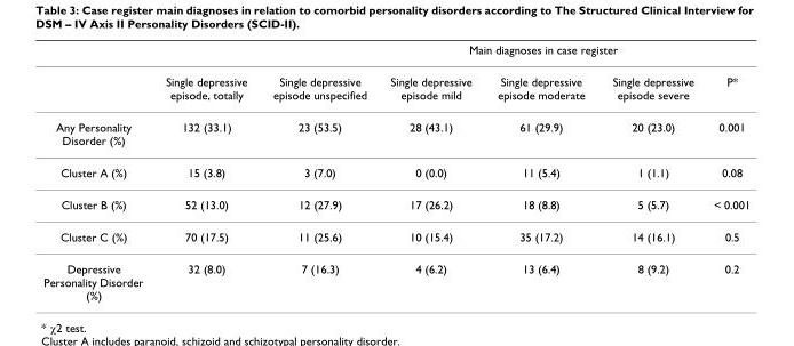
<table><thead><tr><td rowspan="2"></td><td rowspan="2">Single depressive episode, totally</td><td rowspan="2">Single depressive episode unspecified</td><td colspan="3">Main diagnoses in case register</td><td rowspan="2">P*</td></tr><tr><td>Single depressive episode mild</td><td>Single depressive episode moderate</td><td>Single depressive episode severe</td></tr></thead><tbody><tr><td>Any Personality Disorder (%)</td><td>132 (33.1)</td><td>23 (53.5)</td><td>28 (43.1)</td><td>61 (29.9)</td><td>20 (23.0)</td><td>0.001</td></tr><tr><td>Cluster A (%)</td><td>15 (3.8)</td><td>3 (7.0)</td><td>0 (0.0)</td><td>11 (5.4)</td><td>1 (1.1)</td><td>0.08</td></tr><tr><td>Cluster B (%)</td><td>52 (13.0)</td><td>12 (27.9)</td><td>17 (26.2)</td><td>18 (8.8)</td><td>5 (5.7)</td><td>&lt; 0.001</td></tr><tr><td>Cluster C (%)</td><td>70 (17.5)</td><td>11 (25.6)</td><td>10 (15.4)</td><td>35 (17.2)</td><td>14 (16.1)</td><td>0.5</td></tr><tr><td>Depressive Personality Disorder (%)</td><td>32 (8.0)</td><td>7 (16.3)</td><td>4 (6.2)</td><td>13 (6.4)</td><td>8 (9.2)</td><td>0.2</td></tr></tbody></table>